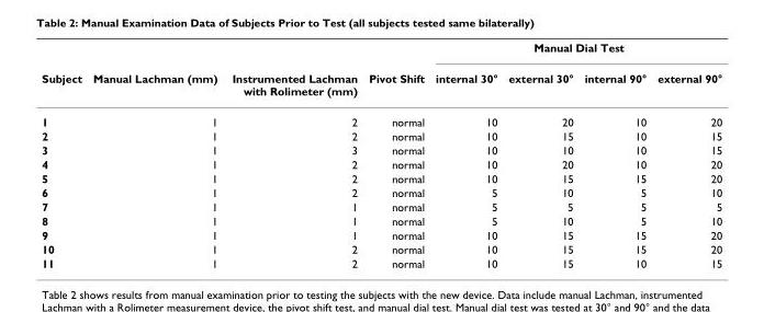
<table><thead><tr><td rowspan="2">Subject</td><td rowspan="2">Manual Lachman (mm)</td><td rowspan="2">Instrumented Lachman with Rolimeter (mm)</td><td rowspan="2">Pivot Shift</td><td colspan="4">Manual Dial Test</td></tr><tr><td>internal 30°</td><td>external 30°</td><td>internal 90°</td><td>external 90°</td></tr></thead><tbody><tr><td>1</td><td>1</td><td>2</td><td>normal</td><td>10</td><td>20</td><td>10</td><td>20</td></tr><tr><td>2</td><td>1</td><td>2</td><td>normal</td><td>10</td><td>15</td><td>10</td><td>15</td></tr><tr><td>3</td><td>1</td><td>3</td><td>normal</td><td>10</td><td>10</td><td>10</td><td>15</td></tr><tr><td>4</td><td>1</td><td>2</td><td>normal</td><td>10</td><td>20</td><td>10</td><td>20</td></tr><tr><td>5</td><td>1</td><td>2</td><td>normal</td><td>10</td><td>15</td><td>15</td><td>20</td></tr><tr><td>6</td><td>1</td><td>2</td><td>normal</td><td>5</td><td>10</td><td>5</td><td>10</td></tr><tr><td>7</td><td>1</td><td>1</td><td>normal</td><td>5</td><td>5</td><td>5</td><td>5</td></tr><tr><td>8</td><td>1</td><td>1</td><td>normal</td><td>5</td><td>10</td><td>5</td><td>10</td></tr><tr><td>9</td><td>1</td><td>1</td><td>normal</td><td>10</td><td>15</td><td>15</td><td>20</td></tr><tr><td>10</td><td>1</td><td>2</td><td>normal</td><td>10</td><td>15</td><td>15</td><td>20</td></tr><tr><td>11</td><td>1</td><td>2</td><td>normal</td><td>10</td><td>15</td><td>10</td><td>15</td></tr></tbody></table>